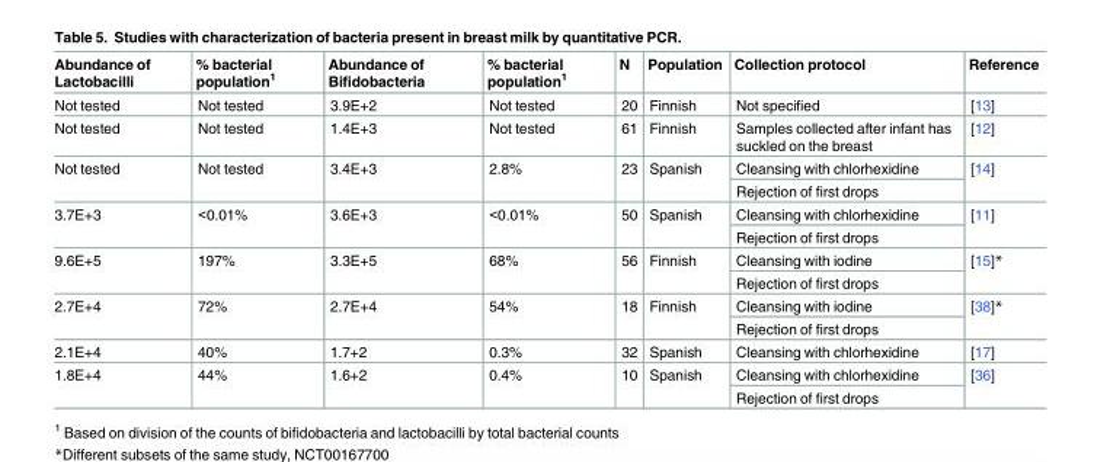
<table><thead><tr><td>Abundance of Lactobacilli</td><td>% bacterial population<sup>1</sup></td><td>Abundance of Bifidobacteria</td><td>% bacterial population<sup>1</sup></td><td>N</td><td>Population</td><td>Collection protocol</td><td>Reference</td></tr></thead><tbody><tr><td>Not tested</td><td>Not tested</td><td>3.9E+2</td><td>Not tested</td><td>20</td><td>Finnish</td><td>Not specified</td><td>[13]</td></tr><tr><td>Not tested</td><td>Not tested</td><td>1.4E+3</td><td>Not tested</td><td>61</td><td>Finnish</td><td>Samples collected after infant has suckled on the breast</td><td>[12]</td></tr><tr><td rowspan="2">Not tested</td><td rowspan="2">Not tested</td><td rowspan="2">3.4E+3</td><td rowspan="2">2.8%</td><td rowspan="2">23</td><td rowspan="2">Spanish</td><td>Cleansing with chlorhexidine</td><td rowspan="2">[14]</td></tr><tr><td>Rejection of first drops</td></tr><tr><td rowspan="2">3.7E+3</td><td rowspan="2">&lt;0.01%</td><td rowspan="2">3.6E+3</td><td rowspan="2">&lt;0.01%</td><td rowspan="2">50</td><td rowspan="2">Spanish</td><td>Cleansing with chlorhexidine</td><td rowspan="2">[11]</td></tr><tr><td>Rejection of first drops</td></tr><tr><td rowspan="2">9.6E+5</td><td rowspan="2">197%</td><td rowspan="2">3.3E+5</td><td rowspan="2">68%</td><td rowspan="2">56</td><td rowspan="2">Finnish</td><td>Cleansing with iodine</td><td rowspan="2">[15]*</td></tr><tr><td>Rejection of first drops</td></tr><tr><td rowspan="2">2.7E+4</td><td rowspan="2">72%</td><td rowspan="2">2.7E+4</td><td rowspan="2">54%</td><td rowspan="2">18</td><td rowspan="2">Finnish</td><td>Cleansing with iodine</td><td rowspan="2">[38]*</td></tr><tr><td>Rejection of first drops</td></tr><tr><td>2.1E+4</td><td>40%</td><td>1.7+2</td><td>0.3%</td><td>32</td><td>Spanish</td><td>Cleansing with chlorhexidine</td><td>[17]</td></tr><tr><td rowspan="2">1.8E+4</td><td rowspan="2">44%</td><td rowspan="2">1.6+2</td><td rowspan="2">0.4%</td><td rowspan="2">10</td><td rowspan="2">Spanish</td><td>Cleansing with chlorhexidine</td><td rowspan="2">[36]</td></tr><tr><td>Rejection of first drops</td></tr></tbody></table>